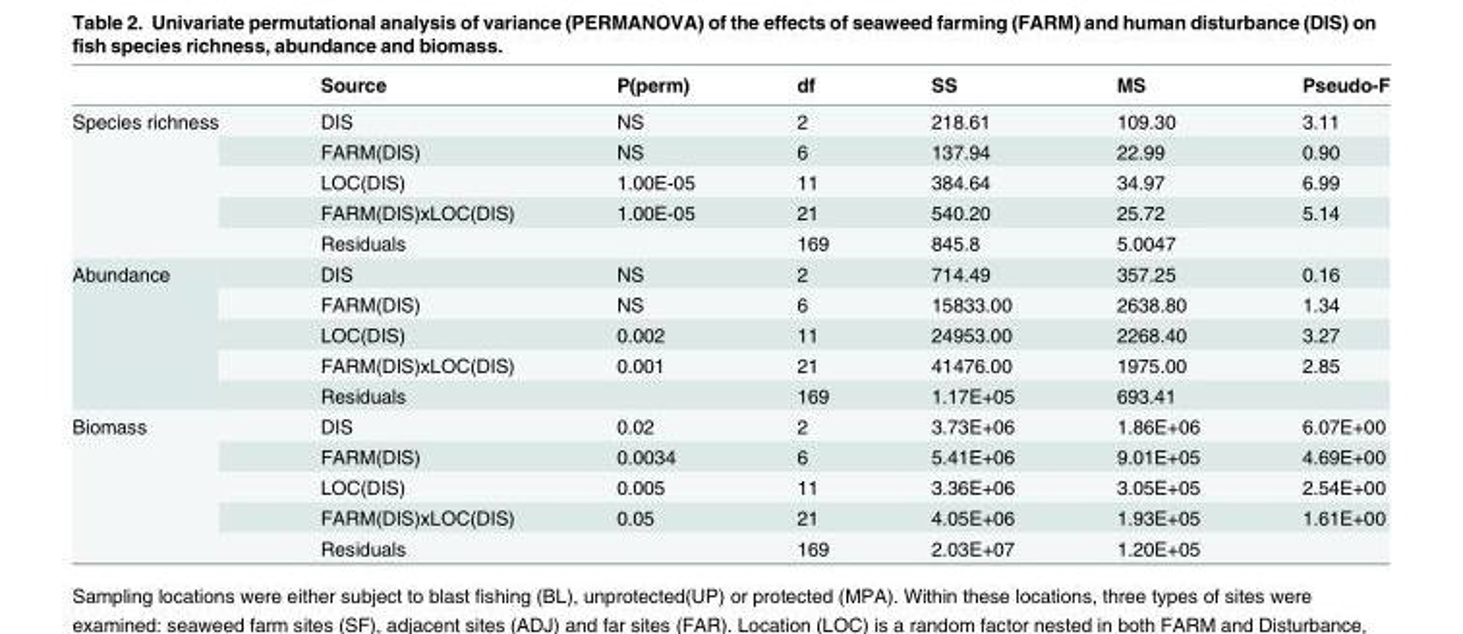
<table><thead><tr><td></td><td>Source</td><td>P(perm)</td><td>df</td><td>SS</td><td>MS</td><td>Pseudo-F</td></tr></thead><tbody><tr><td rowspan="5">Species richness</td><td>DIS</td><td>NS</td><td>2</td><td>218.61</td><td>109.30</td><td>3.11</td></tr><tr><td>FARM(DIS)</td><td>NS</td><td>6</td><td>137.94</td><td>22.99</td><td>0.90</td></tr><tr><td>LOC(DIS)</td><td>1.00E-05</td><td>11</td><td>384.64</td><td>34.97</td><td>6.99</td></tr><tr><td>FARM(DIS)xLOC(DIS)</td><td>1.00E-05</td><td>21</td><td>540.20</td><td>25.72</td><td>5.14</td></tr><tr><td>Residuals</td><td></td><td>169</td><td>845.8</td><td>5.0047</td><td></td></tr><tr><td rowspan="5">Abundance</td><td>DIS</td><td>NS</td><td>2</td><td>714.49</td><td>357.25</td><td>0.16</td></tr><tr><td>FARM(DIS)</td><td>NS</td><td>6</td><td>15833.00</td><td>2638.80</td><td>1.34</td></tr><tr><td>LOC(DIS)</td><td>0.002</td><td>11</td><td>24953.00</td><td>2268.40</td><td>3.27</td></tr><tr><td>FARM(DIS)xLOC(DIS)</td><td>0.001</td><td>21</td><td>41476.00</td><td>1975.00</td><td>2.85</td></tr><tr><td>Residuals</td><td></td><td>169</td><td>1.17E+05</td><td>693.41</td><td></td></tr><tr><td rowspan="5">Biomass</td><td>DIS</td><td>0.02</td><td>2</td><td>3.73E+06</td><td>1.86E+06</td><td>6.07E+00</td></tr><tr><td>FARM(DIS)</td><td>0.0034</td><td>6</td><td>5.41E+06</td><td>9.01E+05</td><td>4.69E+00</td></tr><tr><td>LOC(DIS)</td><td>0.005</td><td>11</td><td>3.36E+06</td><td>3.05E+05</td><td>2.54E+00</td></tr><tr><td>FARM(DIS)xLOC(DIS)</td><td>0.05</td><td>21</td><td>4.05E+06</td><td>1.93E+05</td><td>1.61E+00</td></tr><tr><td>Residuals</td><td></td><td>169</td><td>2.03E+07</td><td>1.20E+05</td><td></td></tr></tbody></table>